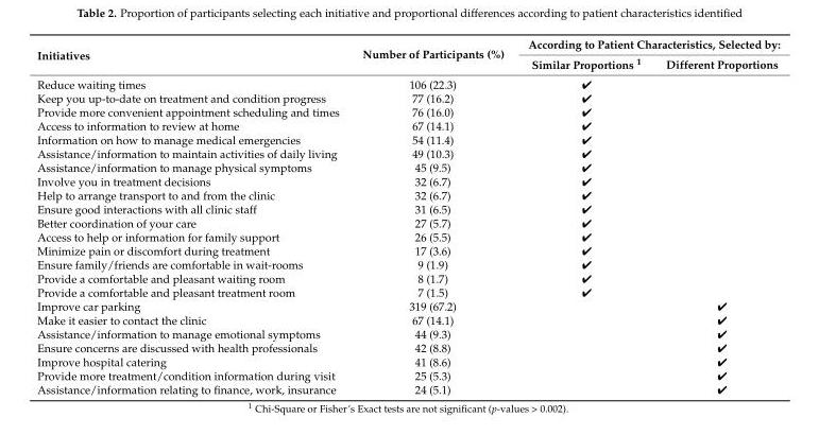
<table><thead><tr><td rowspan="2">Initiatives</td><td rowspan="2">Number of Participants (%)</td><td colspan="2">According to Patient Characteristics, Selected by:</td></tr><tr><td>Similar Proportions <sup>1</sup></td><td>Different Proportions</td></tr></thead><tbody><tr><td>Reduce waiting times</td><td>106 (22.3)</td><td></td><td></td></tr><tr><td>Keep you up-to-date on treatment and condition progress</td><td>77 (16.2)</td><td></td><td></td></tr><tr><td>Provide more convenient appointment scheduling and times</td><td>76 (16.0)</td><td></td><td></td></tr><tr><td>Access to information to review at home</td><td>67 (14.1)</td><td></td><td></td></tr><tr><td>Information on how to manage medical emergencies</td><td>54 (11.4)</td><td></td><td></td></tr><tr><td>Assistance/information to maintain activities of daily living</td><td>49 (10.3)</td><td></td><td></td></tr><tr><td>Assistance/information to manage physical symptoms</td><td>45 (9.5)</td><td></td><td></td></tr><tr><td>Involve you in treatment decisions</td><td>32 (6.7)</td><td></td><td></td></tr><tr><td>Help to arrange transport to and from the clinic</td><td>32 (6.7)</td><td></td><td></td></tr><tr><td>Ensure good interactions with all clinic staff</td><td>31 (6.5)</td><td></td><td></td></tr><tr><td>Better coordination of your care</td><td>27 (5.7)</td><td></td><td></td></tr><tr><td>Access to help or information for family support</td><td>26 (5.5)</td><td></td><td></td></tr><tr><td>Minimize pain or discomfort during treatment</td><td>17 (3.6)</td><td></td><td></td></tr><tr><td>Ensure family/friends are comfortable in wait-rooms</td><td>9 (1.9)</td><td></td><td></td></tr><tr><td>Provide a comfortable and pleasant waiting room</td><td>8 (1.7)</td><td></td><td></td></tr><tr><td>Provide a comfortable and pleasant treatment room</td><td>7 (1.5)</td><td></td><td></td></tr><tr><td>Improve car parking</td><td>319 (67.2)</td><td></td><td></td></tr><tr><td>Make it easier to contact the clinic</td><td>67 (14.1)</td><td></td><td></td></tr><tr><td>Assistance/information to manage emotional symptoms</td><td>44 (9.3)</td><td></td><td></td></tr><tr><td>Ensure concerns are discussed with health professionals</td><td>42 (8.8)</td><td></td><td></td></tr><tr><td>Improve hospital catering</td><td>41 (8.6)</td><td></td><td></td></tr><tr><td>Provide more treatment/condition information during visit</td><td>25 (5.3)</td><td></td><td></td></tr><tr><td>Assistance/information relating to finance, work, insurance</td><td>24 (5.1)</td><td></td><td></td></tr></tbody></table>